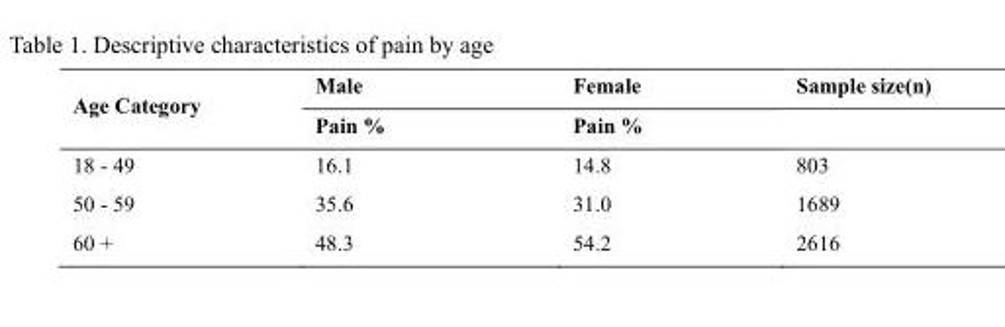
<table><thead><tr><td rowspan="2">Age Category</td><td rowspan="2">Male Pain %</td><td rowspan="2">Female Pain %</td><td rowspan="2">Sample size(n)</td></tr><tr></tr></thead><tbody><tr><td>18 - 49</td><td>16.1</td><td>14.8</td><td>803</td></tr><tr><td>50 - 59</td><td>35.6</td><td>31.0</td><td>1689</td></tr><tr><td>60 +</td><td>48.3</td><td>54.2</td><td>2616</td></tr></tbody></table>